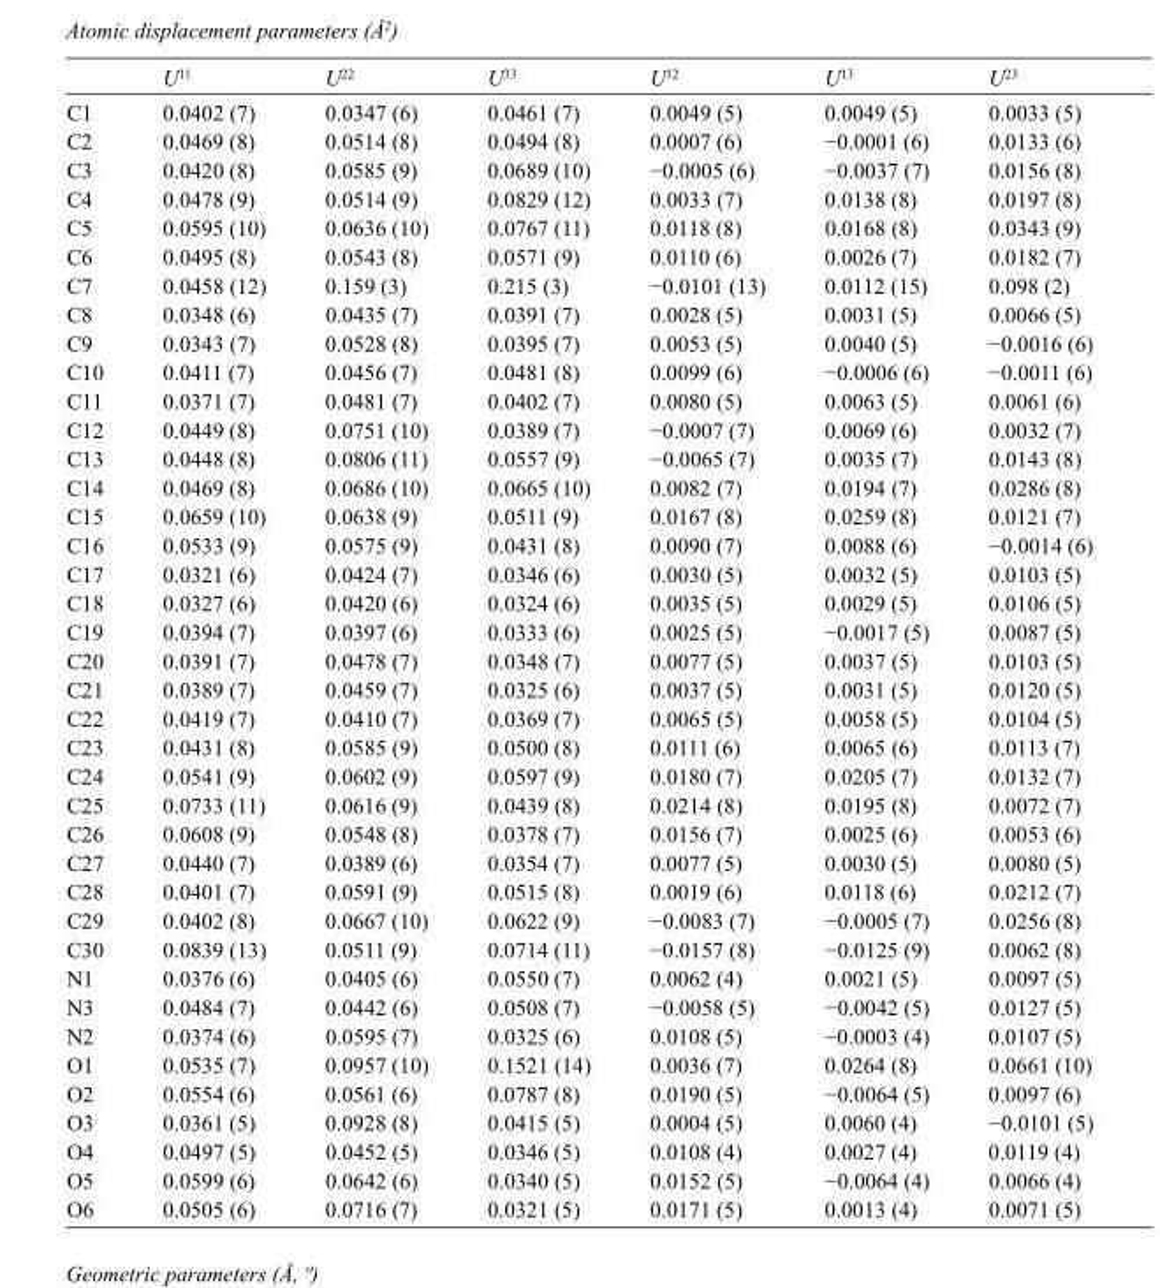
<table><thead><tr><td></td><td>U<sup>11</sup></td><td>U<sup>22</sup></td><td>U<sup>33</sup></td><td>U<sup>12</sup></td><td>U<sup>13</sup></td><td>U<sup>23</sup></td></tr></thead><tbody><tr><td>C1</td><td>0.0402 (7)</td><td>0.0347 (6)</td><td>0.0461 (7)</td><td>0.0049 (5)</td><td>0.0049 (5)</td><td>0.0033 (5)</td></tr><tr><td>C2</td><td>0.0469 (8)</td><td>0.0514 (8)</td><td>0.0494 (8)</td><td>0.0007 (6)</td><td>−0.0001 (6)</td><td>0.0133 (6)</td></tr><tr><td>C3</td><td>0.0420 (8)</td><td>0.0585 (9)</td><td>0.0689 (10)</td><td>−0.0005 (6)</td><td>−0.0037 (7)</td><td>0.0156 (8)</td></tr><tr><td>C4</td><td>0.0478 (9)</td><td>0.0514 (9)</td><td>0.0829 (12)</td><td>0.0033 (7)</td><td>0.0138 (8)</td><td>0.0197 (8)</td></tr><tr><td>C5</td><td>0.0595 (10)</td><td>0.0636 (10)</td><td>0.0767 (11)</td><td>0.0118 (8)</td><td>0.0168 (8)</td><td>0.0343 (9)</td></tr><tr><td>C6</td><td>0.0495 (8)</td><td>0.0543 (8)</td><td>0.0571 (9)</td><td>0.0110 (6)</td><td>0.0026 (7)</td><td>0.0182 (7)</td></tr><tr><td>C7</td><td>0.0458 (12)</td><td>0.159 (3)</td><td>0.215 (3)</td><td>−0.0101 (13)</td><td>0.0112 (15)</td><td>0.098 (2)</td></tr><tr><td>C8</td><td>0.0348 (6)</td><td>0.0435 (7)</td><td>0.0391 (7)</td><td>0.0028 (5)</td><td>0.0031 (5)</td><td>0.0066 (5)</td></tr><tr><td>C9</td><td>0.0343 (7)</td><td>0.0528 (8)</td><td>0.0395 (7)</td><td>0.0053 (5)</td><td>0.0040 (5)</td><td>−0.0016 (6)</td></tr><tr><td>C10</td><td>0.0411 (7)</td><td>0.0456 (7)</td><td>0.0481 (8)</td><td>0.0099 (6)</td><td>−0.0006 (6)</td><td>−0.0011 (6)</td></tr><tr><td>C11</td><td>0.0371 (7)</td><td>0.0481 (7)</td><td>0.0402 (7)</td><td>0.0080 (5)</td><td>0.0063 (5)</td><td>0.0061 (6)</td></tr><tr><td>C12</td><td>0.0449 (8)</td><td>0.0751 (10)</td><td>0.0389 (7)</td><td>−0.0007 (7)</td><td>0.0069 (6)</td><td>0.0032 (7)</td></tr><tr><td>C13</td><td>0.0448 (8)</td><td>0.0806 (11)</td><td>0.0557 (9)</td><td>−0.0065 (7)</td><td>0.0035 (7)</td><td>0.0143 (8)</td></tr><tr><td>C14</td><td>0.0469 (8)</td><td>0.0686 (10)</td><td>0.0665 (10)</td><td>0.0082 (7)</td><td>0.0194 (7)</td><td>0.0286 (8)</td></tr><tr><td>C15</td><td>0.0659 (10)</td><td>0.0638 (9)</td><td>0.0511 (9)</td><td>0.0167 (8)</td><td>0.0259 (8)</td><td>0.0121 (7)</td></tr><tr><td>C16</td><td>0.0533 (9)</td><td>0.0575 (9)</td><td>0.0431 (8)</td><td>0.0090 (7)</td><td>0.0088 (6)</td><td>−0.0014 (6)</td></tr><tr><td>C17</td><td>0.0321 (6)</td><td>0.0424 (7)</td><td>0.0346 (6)</td><td>0.0030 (5)</td><td>0.0032 (5)</td><td>0.0103 (5)</td></tr><tr><td>C18</td><td>0.0327 (6)</td><td>0.0420 (6)</td><td>0.0324 (6)</td><td>0.0035 (5)</td><td>0.0029 (5)</td><td>0.0106 (5)</td></tr><tr><td>C19</td><td>0.0394 (7)</td><td>0.0397 (6)</td><td>0.0333 (6)</td><td>0.0025 (5)</td><td>−0.0017 (5)</td><td>0.0087 (5)</td></tr><tr><td>C20</td><td>0.0391 (7)</td><td>0.0478 (7)</td><td>0.0348 (7)</td><td>0.0077 (5)</td><td>0.0037 (5)</td><td>0.0103 (5)</td></tr><tr><td>C21</td><td>0.0389 (7)</td><td>0.0459 (7)</td><td>0.0325 (6)</td><td>0.0037 (5)</td><td>0.0031 (5)</td><td>0.0120 (5)</td></tr><tr><td>C22</td><td>0.0419 (7)</td><td>0.0410 (7)</td><td>0.0369 (7)</td><td>0.0065 (5)</td><td>0.0058 (5)</td><td>0.0104 (5)</td></tr><tr><td>C23</td><td>0.0431 (8)</td><td>0.0585 (9)</td><td>0.0500 (8)</td><td>0.0111 (6)</td><td>0.0065 (6)</td><td>0.0113 (7)</td></tr><tr><td>C24</td><td>0.0541 (9)</td><td>0.0602 (9)</td><td>0.0597 (9)</td><td>0.0180 (7)</td><td>0.0205 (7)</td><td>0.0132 (7)</td></tr><tr><td>C25</td><td>0.0733 (11)</td><td>0.0616 (9)</td><td>0.0439 (8)</td><td>0.0214 (8)</td><td>0.0195 (8)</td><td>0.0072 (7)</td></tr><tr><td>C26</td><td>0.0608 (9)</td><td>0.0548 (8)</td><td>0.0378 (7)</td><td>0.0156 (7)</td><td>0.0025 (6)</td><td>0.0053 (6)</td></tr><tr><td>C27</td><td>0.0440 (7)</td><td>0.0389 (6)</td><td>0.0354 (7)</td><td>0.0077 (5)</td><td>0.0030 (5)</td><td>0.0080 (5)</td></tr><tr><td>C28</td><td>0.0401 (7)</td><td>0.0591 (9)</td><td>0.0515 (8)</td><td>0.0019 (6)</td><td>0.0118 (6)</td><td>0.0212 (7)</td></tr><tr><td>C29</td><td>0.0402 (8)</td><td>0.0667 (10)</td><td>0.0622 (9)</td><td>−0.0083 (7)</td><td>−0.0005 (7)</td><td>0.0256 (8)</td></tr><tr><td>C30</td><td>0.0839 (13)</td><td>0.0511 (9)</td><td>0.0714 (11)</td><td>−0.0157 (8)</td><td>−0.0125 (9)</td><td>0.0062 (8)</td></tr><tr><td>N1</td><td>0.0376 (6)</td><td>0.0405 (6)</td><td>0.0550 (7)</td><td>0.0062 (4)</td><td>0.0021 (5)</td><td>0.0097 (5)</td></tr><tr><td>N3</td><td>0.0484 (7)</td><td>0.0442 (6)</td><td>0.0508 (7)</td><td>−0.0058 (5)</td><td>−0.0042 (5)</td><td>0.0127 (5)</td></tr><tr><td>N2</td><td>0.0374 (6)</td><td>0.0595 (7)</td><td>0.0325 (6)</td><td>0.0108 (5)</td><td>−0.0003 (4)</td><td>0.0107 (5)</td></tr><tr><td>O1</td><td>0.0535 (7)</td><td>0.0957 (10)</td><td>0.1521 (14)</td><td>0.0036 (7)</td><td>0.0264 (8)</td><td>0.0661 (10)</td></tr><tr><td>O2</td><td>0.0554 (6)</td><td>0.0561 (6)</td><td>0.0787 (8)</td><td>0.0190 (5)</td><td>−0.0064 (5)</td><td>0.0097 (6)</td></tr><tr><td>O3</td><td>0.0361 (5)</td><td>0.0928 (8)</td><td>0.0415 (5)</td><td>0.0004 (5)</td><td>0.0060 (4)</td><td>−0.0101 (5)</td></tr><tr><td>O4</td><td>0.0497 (5)</td><td>0.0452 (5)</td><td>0.0346 (5)</td><td>0.0108 (4)</td><td>0.0027 (4)</td><td>0.0119 (4)</td></tr><tr><td>O5</td><td>0.0599 (6)</td><td>0.0642 (6)</td><td>0.0340 (5)</td><td>0.0152 (5)</td><td>−0.0064 (4)</td><td>0.0066 (4)</td></tr><tr><td>O6</td><td>0.0505 (6)</td><td>0.0716 (7)</td><td>0.0321 (5)</td><td>0.0171 (5)</td><td>0.0013 (4)</td><td>0.0071 (5)</td></tr></tbody></table>